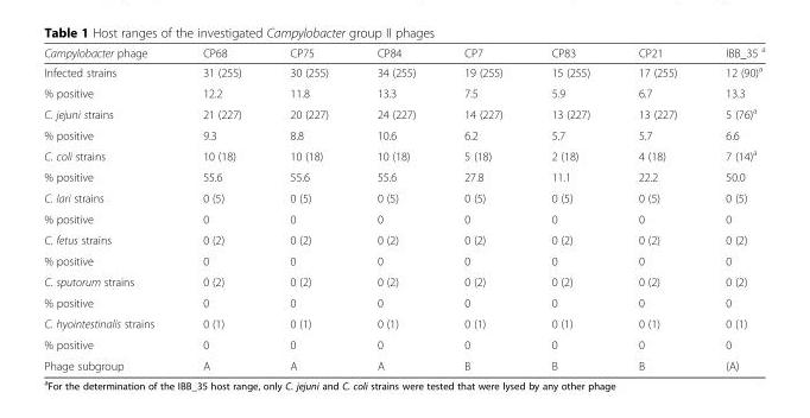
<table><thead><tr><td>Campylobacter phage</td><td>CP68</td><td>CP75</td><td>CP84</td><td>CP7</td><td>CP83</td><td>CP21</td><td>IBB_35 <sup>a</sup></td></tr></thead><tbody><tr><td>Infected strains</td><td>31 (255)</td><td>30 (255)</td><td>34 (255)</td><td>19 (255)</td><td>15 (255)</td><td>17 (255)</td><td>12 (90)<sup>a</sup></td></tr><tr><td>% positive</td><td>12.2</td><td>11.8</td><td>13.3</td><td>7.5</td><td>5.9</td><td>6.7</td><td>13.3</td></tr><tr><td>C. jejuni strains</td><td>21 (227)</td><td>20 (227)</td><td>24 (227)</td><td>14 (227)</td><td>13 (227)</td><td>13 (227)</td><td>5 (76)<sup>a</sup></td></tr><tr><td>% positive</td><td>9.3</td><td>8.8</td><td>10.6</td><td>6.2</td><td>5.7</td><td>5.7</td><td>6.6</td></tr><tr><td>C. coli strains</td><td>10 (18)</td><td>10 (18)</td><td>10 (18)</td><td>5 (18)</td><td>2 (18)</td><td>4 (18)</td><td>7 (14)<sup>a</sup></td></tr><tr><td>% positive</td><td>55.6</td><td>55.6</td><td>55.6</td><td>27.8</td><td>11.1</td><td>22.2</td><td>50.0</td></tr><tr><td>C. lari strains</td><td>0 (5)</td><td>0 (5)</td><td>0 (5)</td><td>0 (5)</td><td>0 (5)</td><td>0 (5)</td><td>0 (5)</td></tr><tr><td>% positive</td><td>0</td><td>0</td><td>0</td><td>0</td><td>0</td><td>0</td><td>0</td></tr><tr><td>C. fetus strains</td><td>0 (2)</td><td>0 (2)</td><td>0 (2)</td><td>0 (2)</td><td>0 (2)</td><td>0 (2)</td><td>0 (2)</td></tr><tr><td>% positive</td><td>0</td><td>0</td><td>0</td><td>0</td><td>0</td><td>0</td><td>0</td></tr><tr><td>C. sputorum strains</td><td>0 (2)</td><td>0 (2)</td><td>0 (2)</td><td>0 (2)</td><td>0 (2)</td><td>0 (2)</td><td>0 (2)</td></tr><tr><td>% positive</td><td>0</td><td>0</td><td>0</td><td>0</td><td>0</td><td>0</td><td>0</td></tr><tr><td>C. hyointestinalis strains</td><td>0 (1)</td><td>0 (1)</td><td>0 (1)</td><td>0 (1)</td><td>0 (1)</td><td>0 (1)</td><td>0 (1)</td></tr><tr><td>% positive</td><td>0</td><td>0</td><td>0</td><td>0</td><td>0</td><td>0</td><td>0</td></tr><tr><td>Phage subgroup</td><td>A</td><td>A</td><td>A</td><td>B</td><td>B</td><td>B</td><td>(A)</td></tr></tbody></table>